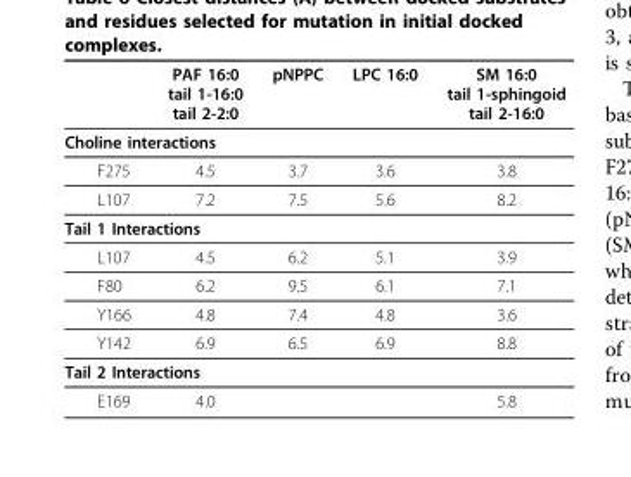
<table><thead><tr><td></td><td>PAF 16:0 tail 1-16:0 tail 2-2:0</td><td>pNPPC</td><td>LPC 16:0</td><td>SM 16:0 tail 1-sphingoid tail 2-16:0</td></tr></thead><tbody><tr><td colspan="5">Choline interactions</td></tr><tr><td>F275</td><td>4.5</td><td>3.7</td><td>3.6</td><td>3.8</td></tr><tr><td>L107</td><td>7.2</td><td>7.5</td><td>5.6</td><td>8.2</td></tr><tr><td colspan="5">Tail 1 Interactions</td></tr><tr><td>L107</td><td>4.5</td><td>6.2</td><td>5.1</td><td>3.9</td></tr><tr><td>F80</td><td>6.2</td><td>9.5</td><td>6.1</td><td>7.1</td></tr><tr><td>Y166</td><td>4.8</td><td>7.4</td><td>4.8</td><td>3.6</td></tr><tr><td>Y142</td><td>6.9</td><td>6.5</td><td>6.9</td><td>8.8</td></tr><tr><td colspan="5">Tail 2 Interactions</td></tr><tr><td>E169</td><td>4.0</td><td></td><td></td><td>5.8</td></tr></tbody></table>